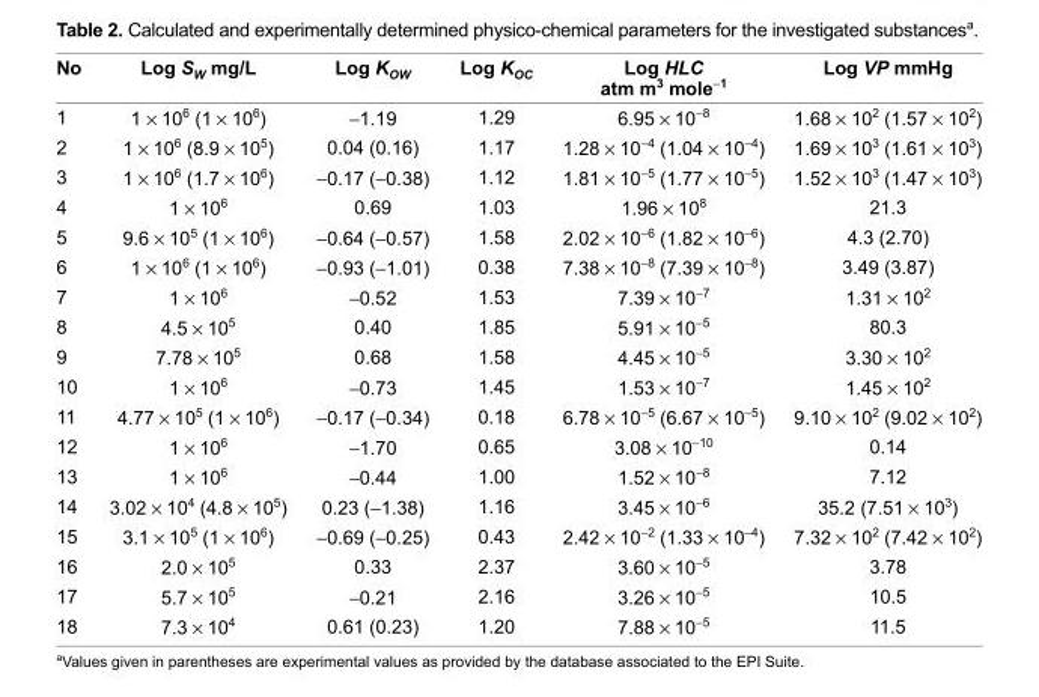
<table><thead><tr><td>No</td><td>Log S<sub>W</sub> mg/L</td><td>Log K<sub>OW</sub></td><td>Log K<sub>OC</sub></td><td>Log HLC atm m<sup>3</sup> mole<sup>−1</sup></td><td>Log VP mmHg</td></tr></thead><tbody><tr><td>1</td><td>1 × 10<sup>6</sup> (1 × 10<sup>6</sup>)</td><td>−1.19</td><td>1.29</td><td>6.95 × 10<sup>−8</sup></td><td>1.68 × 10<sup>2</sup> (1.57 × 10<sup>2</sup>)</td></tr><tr><td>2</td><td>1 × 10<sup>6</sup> (8.9 × 10<sup>5</sup>)</td><td>0.04 (0.16)</td><td>1.17</td><td>1.28 × 10<sup>−4</sup> (1.04 × 10<sup>−4</sup>)</td><td>1.69 × 10<sup>3</sup> (1.61 × 10<sup>3</sup>)</td></tr><tr><td>3</td><td>1 × 10<sup>6</sup> (1.7 × 10<sup>6</sup>)</td><td>−0.17 (−0.38)</td><td>1.12</td><td>1.81 × 10<sup>−5</sup> (1.77 × 10<sup>−5</sup>)</td><td>1.52 × 10<sup>3</sup> (1.47 × 10<sup>3</sup>)</td></tr><tr><td>4</td><td>1 × 10<sup>6</sup></td><td>0.69</td><td>1.03</td><td>1.96 × 10<sup>8</sup></td><td>21.3</td></tr><tr><td>5</td><td>9.6 × 10<sup>5</sup> (1 × 10<sup>6</sup>)</td><td>−0.64 (−0.57)</td><td>1.58</td><td>2.02 × 10<sup>−6</sup> (1.82 × 10<sup>−6</sup>)</td><td>4.3 (2.70)</td></tr><tr><td>6</td><td>1 × 10<sup>6</sup> (1 × 10<sup>6</sup>)</td><td>−0.93 (−1.01)</td><td>0.38</td><td>7.38 × 10<sup>−8</sup> (7.39 × 10<sup>−8</sup>)</td><td>3.49 (3.87)</td></tr><tr><td>7</td><td>1 × 10<sup>6</sup></td><td>−0.52</td><td>1.53</td><td>7.39 × 10<sup>−7</sup></td><td>1.31 × 10<sup>2</sup></td></tr><tr><td>8</td><td>4.5 × 10<sup>5</sup></td><td>0.40</td><td>1.85</td><td>5.91 × 10<sup>−5</sup></td><td>80.3</td></tr><tr><td>9</td><td>7.78 × 10<sup>5</sup></td><td>0.68</td><td>1.58</td><td>4.45 × 10<sup>−5</sup></td><td>3.30 × 10<sup>2</sup></td></tr><tr><td>10</td><td>1 × 10<sup>6</sup></td><td>−0.73</td><td>1.45</td><td>1.53 × 10<sup>−7</sup></td><td>1.45 × 10<sup>2</sup></td></tr><tr><td>11</td><td>4.77 × 10<sup>5</sup> (1 × 10<sup>6</sup>)</td><td>−0.17 (−0.34)</td><td>0.18</td><td>6.78 × 10<sup>−5</sup> (6.67 × 10<sup>−5</sup>)</td><td>9.10 × 10<sup>2</sup> (9.02 × 10<sup>2</sup>)</td></tr><tr><td>12</td><td>1 × 10<sup>6</sup></td><td>−1.70</td><td>0.65</td><td>3.08 × 10<sup>−10</sup></td><td>0.14</td></tr><tr><td>13</td><td>1 × 10<sup>6</sup></td><td>−0.44</td><td>1.00</td><td>1.52 × 10<sup>−8</sup></td><td>7.12</td></tr><tr><td>14</td><td>3.02 × 10<sup>4</sup> (4.8 × 10<sup>5</sup>)</td><td>0.23 (−1.38)</td><td>1.16</td><td>3.45 × 10<sup>−6</sup></td><td>35.2 (7.51 × 10<sup>3</sup>)</td></tr><tr><td>15</td><td>3.1 × 10<sup>5</sup> (1 × 10<sup>6</sup>)</td><td>−0.69 (−0.25)</td><td>0.43</td><td>2.42 × 10<sup>−2</sup> (1.33 × 10<sup>−4</sup>)</td><td>7.32 × 10<sup>2</sup> (7.42 × 10<sup>2</sup>)</td></tr><tr><td>16</td><td>2.0 × 10<sup>5</sup></td><td>0.33</td><td>2.37</td><td>3.60 × 10<sup>−5</sup></td><td>3.78</td></tr><tr><td>17</td><td>5.7 × 10<sup>5</sup></td><td>−0.21</td><td>2.16</td><td>3.26 × 10<sup>−5</sup></td><td>10.5</td></tr><tr><td>18</td><td>7.3 × 10<sup>4</sup></td><td>0.61 (0.23)</td><td>1.20</td><td>7.88 × 10<sup>−5</sup></td><td>11.5</td></tr></tbody></table>